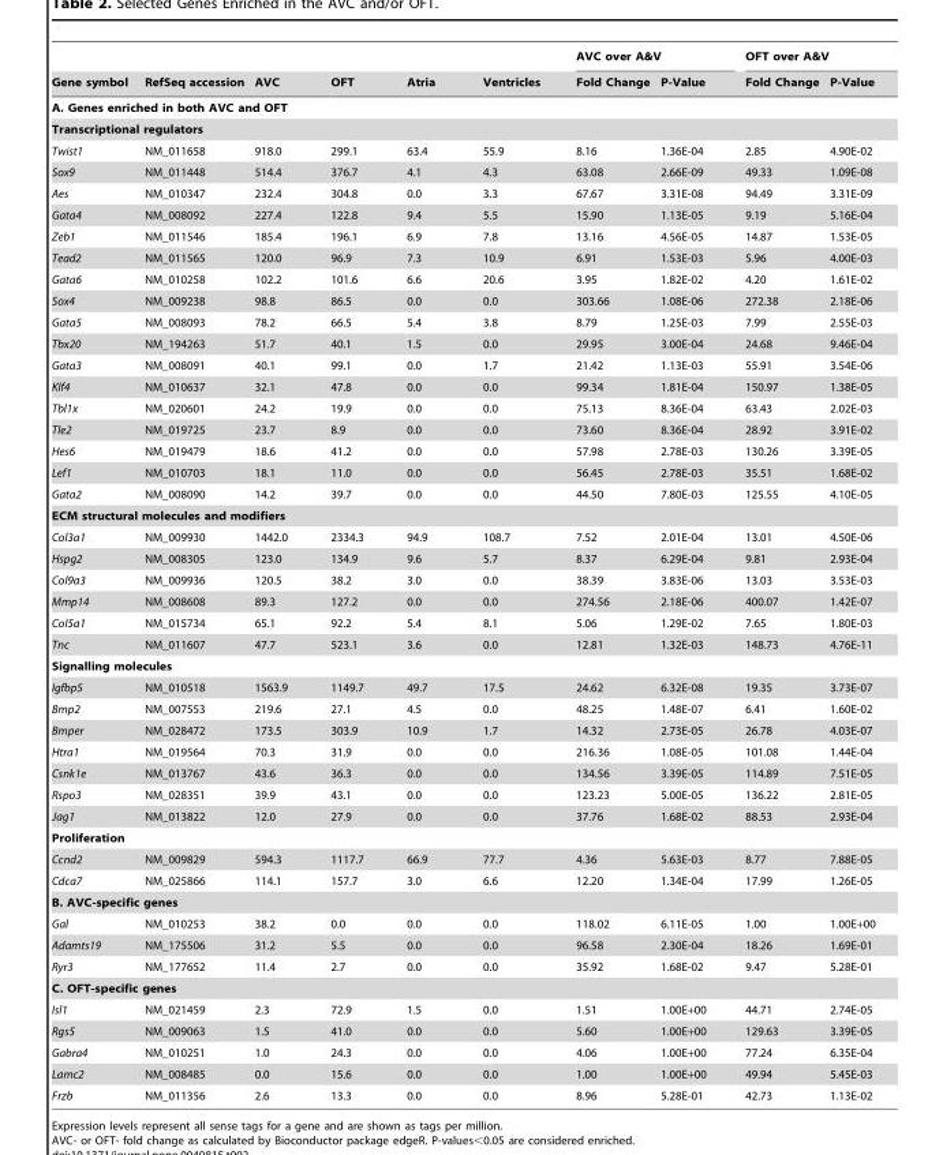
<table><thead><tr><td rowspan="2">Gene symbol</td><td rowspan="2">RefSeq accession</td><td rowspan="2">AVC</td><td rowspan="2">OFT</td><td rowspan="2">Atria</td><td rowspan="2">Ventricles</td><td colspan="2">AVC over A&amp;V</td><td colspan="2">OFT over A&amp;V</td></tr><tr><td>Fold Change</td><td>P-Value</td><td>Fold Change</td><td>P-Value</td></tr></thead><tbody><tr><td colspan="10">A. Genes enriched in both AVC and OFT</td></tr><tr><td colspan="10">Transcriptional regulators</td></tr><tr><td>Twist1</td><td>NM_011658</td><td>918.0</td><td>299.1</td><td>63.4</td><td>55.9</td><td>8.16</td><td>1.36E-04</td><td>2.85</td><td>4.90E-02</td></tr><tr><td>Sox9</td><td>NM_011448</td><td>514.4</td><td>376.7</td><td>4.1</td><td>4.3</td><td>63.08</td><td>2.66E-09</td><td>49.33</td><td>1.09E-08</td></tr><tr><td>Aes</td><td>NM_010347</td><td>232.4</td><td>304.8</td><td>0.0</td><td>3.3</td><td>67.67</td><td>3.31E-08</td><td>94.49</td><td>3.31E-09</td></tr><tr><td>Gata4</td><td>NM_008092</td><td>227.4</td><td>122.8</td><td>9.4</td><td>5.5</td><td>15.90</td><td>1.13E-05</td><td>9.19</td><td>5.16E-04</td></tr><tr><td>Zeb1</td><td>NM_011546</td><td>185.4</td><td>196.1</td><td>6.9</td><td>7.8</td><td>13.16</td><td>4.56E-05</td><td>14.87</td><td>1.53E-05</td></tr><tr><td>Tead2</td><td>NM_011565</td><td>120.0</td><td>96.9</td><td>7.3</td><td>10.9</td><td>6.91</td><td>1.53E-03</td><td>5.96</td><td>4.00E-03</td></tr><tr><td>Gata6</td><td>NM_010258</td><td>102.2</td><td>101.6</td><td>6.6</td><td>20.6</td><td>3.95</td><td>1.82E-02</td><td>4.20</td><td>1.61E-02</td></tr><tr><td>Sox4</td><td>NM_009238</td><td>98.8</td><td>86.5</td><td>0.0</td><td>0.0</td><td>303.66</td><td>1.08E-06</td><td>272.38</td><td>2.18E-06</td></tr><tr><td>Gata5</td><td>NM_008093</td><td>78.2</td><td>66.5</td><td>5.4</td><td>3.8</td><td>8.79</td><td>1.25E-03</td><td>7.99</td><td>2.55E-03</td></tr><tr><td>Tbx20</td><td>NM_194263</td><td>51.7</td><td>40.1</td><td>1.5</td><td>0.0</td><td>29.95</td><td>3.00E-04</td><td>24.68</td><td>9.46E-04</td></tr><tr><td>Gata3</td><td>NM_008091</td><td>40.1</td><td>99.1</td><td>0.0</td><td>1.7</td><td>21.42</td><td>1.13E-03</td><td>55.91</td><td>3.54E-06</td></tr><tr><td>Klf4</td><td>NM_010637</td><td>32.1</td><td>47.8</td><td>0.0</td><td>0.0</td><td>99.34</td><td>1.81E-04</td><td>150.97</td><td>1.38E-05</td></tr><tr><td>Tbl1x</td><td>NM_020601</td><td>24.2</td><td>19.9</td><td>0.0</td><td>0.0</td><td>75.13</td><td>8.36E-04</td><td>63.43</td><td>2.02E-03</td></tr><tr><td>Tle2</td><td>NM_019725</td><td>23.7</td><td>8.9</td><td>0.0</td><td>0.0</td><td>73.60</td><td>8.36E-04</td><td>28.92</td><td>3.91E-02</td></tr><tr><td>Hes6</td><td>NM_019479</td><td>18.6</td><td>41.2</td><td>0.0</td><td>0.0</td><td>57.98</td><td>2.78E-03</td><td>130.26</td><td>3.39E-05</td></tr><tr><td>Lef1</td><td>NM_010703</td><td>18.1</td><td>11.0</td><td>0.0</td><td>0.0</td><td>56.45</td><td>2.78E-03</td><td>35.51</td><td>1.68E-02</td></tr><tr><td>Gata2</td><td>NM_008090</td><td>14.2</td><td>39.7</td><td>0.0</td><td>0.0</td><td>44.50</td><td>7.80E-03</td><td>125.55</td><td>4.10E-05</td></tr><tr><td colspan="10">ECM structural molecules and modifiers</td></tr><tr><td>Col3a1</td><td>NM_009930</td><td>1442.0</td><td>2334.3</td><td>94.9</td><td>108.7</td><td>7.52</td><td>2.01E-04</td><td>13.01</td><td>4.50E-06</td></tr><tr><td>Hspg2</td><td>NM_008305</td><td>123.0</td><td>134.9</td><td>9.6</td><td>5.7</td><td>8.37</td><td>6.29E-04</td><td>9.81</td><td>2.93E-04</td></tr><tr><td>Col9a3</td><td>NM_009936</td><td>120.5</td><td>38.2</td><td>3.0</td><td>0.0</td><td>38.39</td><td>3.83E-06</td><td>13.03</td><td>3.53E-03</td></tr><tr><td>Mmp14</td><td>NM_008608</td><td>89.3</td><td>127.2</td><td>0.0</td><td>0.0</td><td>274.56</td><td>2.18E-06</td><td>400.07</td><td>1.42E-07</td></tr><tr><td>Col5a1</td><td>NM_015734</td><td>65.1</td><td>92.2</td><td>5.4</td><td>8.1</td><td>5.06</td><td>1.29E-02</td><td>7.65</td><td>1.80E-03</td></tr><tr><td>Tnc</td><td>NM_011607</td><td>47.7</td><td>523.1</td><td>3.6</td><td>0.0</td><td>12.81</td><td>1.32E-03</td><td>148.73</td><td>4.76E-11</td></tr><tr><td colspan="10">Signalling molecules</td></tr><tr><td>Igfbp5</td><td>NM_010518</td><td>1563.9</td><td>1149.7</td><td>49.7</td><td>17.5</td><td>24.62</td><td>6.32E-08</td><td>19.35</td><td>3.73E-07</td></tr><tr><td>Bmp2</td><td>NM_007553</td><td>219.6</td><td>27.1</td><td>4.5</td><td>0.0</td><td>48.25</td><td>1.48E-07</td><td>6.41</td><td>1.60E-02</td></tr><tr><td>Bmper</td><td>NM_028472</td><td>173.5</td><td>303.9</td><td>10.9</td><td>1.7</td><td>14.32</td><td>2.73E-05</td><td>26.78</td><td>4.03E-07</td></tr><tr><td>Htra1</td><td>NM_019564</td><td>70.3</td><td>31.9</td><td>0.0</td><td>0.0</td><td>216.36</td><td>1.08E-05</td><td>101.08</td><td>1.44E-04</td></tr><tr><td>Csnk1e</td><td>NM_013767</td><td>43.6</td><td>36.3</td><td>0.0</td><td>0.0</td><td>134.56</td><td>3.39E-05</td><td>114.89</td><td>7.51E-05</td></tr><tr><td>Rspo3</td><td>NM_028351</td><td>39.9</td><td>43.1</td><td>0.0</td><td>0.0</td><td>123.23</td><td>5.00E-05</td><td>136.22</td><td>2.81E-05</td></tr><tr><td>Jag1</td><td>NM_013822</td><td>12.0</td><td>27.9</td><td>0.0</td><td>0.0</td><td>37.76</td><td>1.68E-02</td><td>88.53</td><td>2.93E-04</td></tr><tr><td colspan="10">Proliferation</td></tr><tr><td>Ccnd2</td><td>NM_009829</td><td>594.3</td><td>1117.7</td><td>66.9</td><td>77.7</td><td>4.36</td><td>5.63E-03</td><td>8.77</td><td>7.88E-05</td></tr><tr><td>Cdca7</td><td>NM_025866</td><td>114.1</td><td>157.7</td><td>3.0</td><td>6.6</td><td>12.20</td><td>1.34E-04</td><td>17.99</td><td>1.26E-05</td></tr><tr><td colspan="10">B. AVC-specific genes</td></tr><tr><td>Gal</td><td>NM_010253</td><td>38.2</td><td>0.0</td><td>0.0</td><td>0.0</td><td>118.02</td><td>6.11E-05</td><td>1.00</td><td>1.00E+00</td></tr><tr><td>Adamts19</td><td>NM_175506</td><td>31.2</td><td>5.5</td><td>0.0</td><td>0.0</td><td>96.58</td><td>2.30E-04</td><td>18.26</td><td>1.69E-01</td></tr><tr><td>Ryr3</td><td>NM_177652</td><td>11.4</td><td>2.7</td><td>0.0</td><td>0.0</td><td>35.92</td><td>1.68E-02</td><td>9.47</td><td>5.28E-01</td></tr><tr><td colspan="10">C. OFT-specific genes</td></tr><tr><td>Isl1</td><td>NM_021459</td><td>2.3</td><td>72.9</td><td>1.5</td><td>0.0</td><td>1.51</td><td>1.00E+00</td><td>44.71</td><td>2.74E-05</td></tr><tr><td>Rgs5</td><td>NM_009063</td><td>1.5</td><td>41.0</td><td>0.0</td><td>0.0</td><td>5.60</td><td>1.00E+00</td><td>129.63</td><td>3.39E-05</td></tr><tr><td>Gabra4</td><td>NM_010251</td><td>1.0</td><td>24.3</td><td>0.0</td><td>0.0</td><td>4.06</td><td>1.00E+00</td><td>77.24</td><td>6.35E-04</td></tr><tr><td>Lamc2</td><td>NM_008485</td><td>0.0</td><td>15.6</td><td>0.0</td><td>0.0</td><td>1.00</td><td>1.00E+00</td><td>49.94</td><td>5.45E-03</td></tr><tr><td>Frzb</td><td>NM_011356</td><td>2.6</td><td>13.3</td><td>0.0</td><td>0.0</td><td>8.96</td><td>5.28E-01</td><td>42.73</td><td>1.13E-02</td></tr></tbody></table>